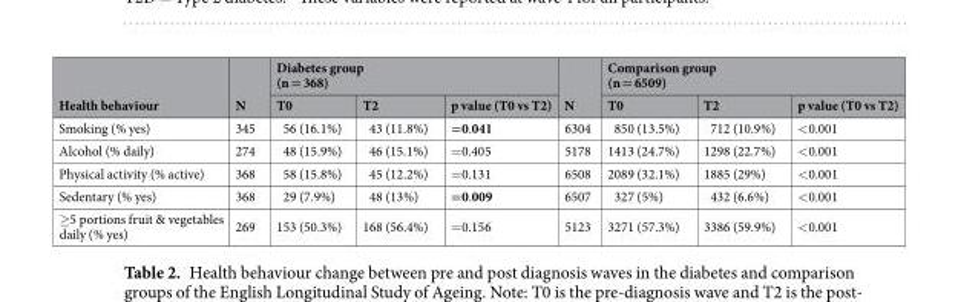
<table><thead><tr><td rowspan="2">Health behaviour</td><td rowspan="2">N</td><td colspan="3">Diabetes group (n = 368)</td><td rowspan="2">N</td><td colspan="3">Comparison group (n = 6509)</td></tr><tr><td>T0</td><td>T2</td><td>p value (T0 vs T2)</td><td>T0</td><td>T2</td><td>p value (T0 vs T2)</td></tr></thead><tbody><tr><td>Smoking (% yes)</td><td>345</td><td>56 (16.1%)</td><td>43 (11.8%)</td><td>=0.041</td><td>6304</td><td>850 (13.5%)</td><td>712 (10.9%)</td><td>&lt;0.001</td></tr><tr><td>Alcohol (% daily)</td><td>274</td><td>48 (15.9%)</td><td>46 (15.1%)</td><td>=0.405</td><td>5178</td><td>1413 (24.7%)</td><td>1298 (22.7%)</td><td>&lt;0.001</td></tr><tr><td>Physical activity (% active)</td><td>368</td><td>58 (15.8%)</td><td>45 (12.2%)</td><td>=0.131</td><td>6508</td><td>2089 (32.1%)</td><td>1885 (29%)</td><td>&lt;0.001</td></tr><tr><td>Sedentary (% yes)</td><td>368</td><td>29 (7.9%)</td><td>48 (13%)</td><td>=0.009</td><td>6507</td><td>327 (5%)</td><td>432 (6.6%)</td><td>&lt;0.001</td></tr><tr><td>≥5 portions fruit &amp; vegetables daily (% yes)</td><td>269</td><td>153 (50.3%)</td><td>168 (56.4%)</td><td>=0.156</td><td>5123</td><td>3271 (57.3%)</td><td>3386 (59.9%)</td><td>&lt;0.001</td></tr></tbody></table>